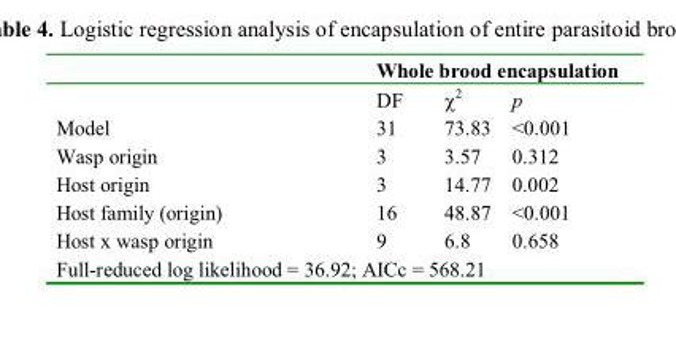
<table><thead><tr><td rowspan="2"></td><td colspan="3">Whole brood encapsulation</td></tr><tr><td>DF</td><td>χ<sup>2</sup></td><td>p</td></tr></thead><tbody><tr><td>Model</td><td>31</td><td>73.83</td><td>&lt;0.001</td></tr><tr><td>Wasp origin</td><td>3</td><td>3.57</td><td>0.312</td></tr><tr><td>Host origin</td><td>3</td><td>14.77</td><td>0.002</td></tr><tr><td>Host family (origin)</td><td>16</td><td>48.87</td><td>&lt;0.001</td></tr><tr><td>Host x wasp origin</td><td>9</td><td>6.8</td><td>0.658</td></tr><tr><td colspan="4">Full-reduced log likelihood = 36.92; AICc = 568.21</td></tr></tbody></table>